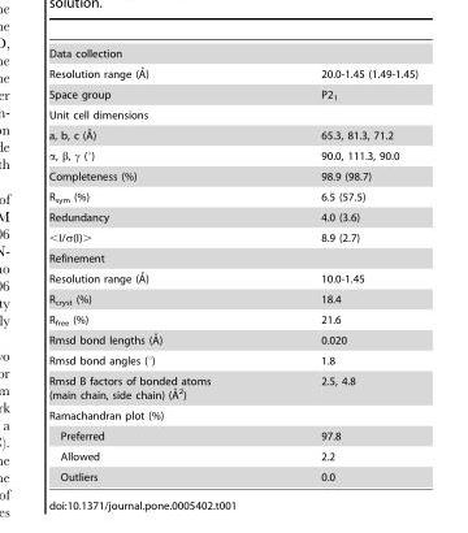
<table><tbody><tr><td colspan="2">Data collection</td></tr><tr><td>Resolution range (A˚)</td><td>20.0-1.45 (1.49-1.45)</td></tr><tr><td>Space group</td><td>P2<sub>1</sub></td></tr><tr><td colspan="2">Unit cell dimensions</td></tr><tr><td>a, b, c (A˚)</td><td>65.3, 81.3, 71.2</td></tr><tr><td>α, β, γ (°)</td><td>90.0, 111.3, 90.0</td></tr><tr><td>Completeness (%)</td><td>98.9 (98.7)</td></tr><tr><td>R<sub>sym</sub> (%)</td><td>6.5 (57.5)</td></tr><tr><td>Redundancy</td><td>4.0 (3.6)</td></tr><tr><td>&lt;I/σ(I)&gt;</td><td>8.9 (2.7)</td></tr><tr><td colspan="2">Refinement</td></tr><tr><td>Resolution range (A˚)</td><td>10.0-1.45</td></tr><tr><td>R<sub>cryst</sub> (%)</td><td>18.4</td></tr><tr><td>R<sub>free</sub> (%)</td><td>21.6</td></tr><tr><td>Rmsd bond lengths (A˚)</td><td>0.020</td></tr><tr><td>Rmsd bond angles (°)</td><td>1.8</td></tr><tr><td>Rmsd B factors of bonded atoms (main chain, side chain) (A˚ 2)</td><td>2.5, 4.8</td></tr><tr><td colspan="2">Ramachandran plot (%)</td></tr><tr><td>Preferred</td><td>97.8</td></tr><tr><td>Allowed</td><td>2.2</td></tr><tr><td>Outliers</td><td>0.0</td></tr></tbody></table>